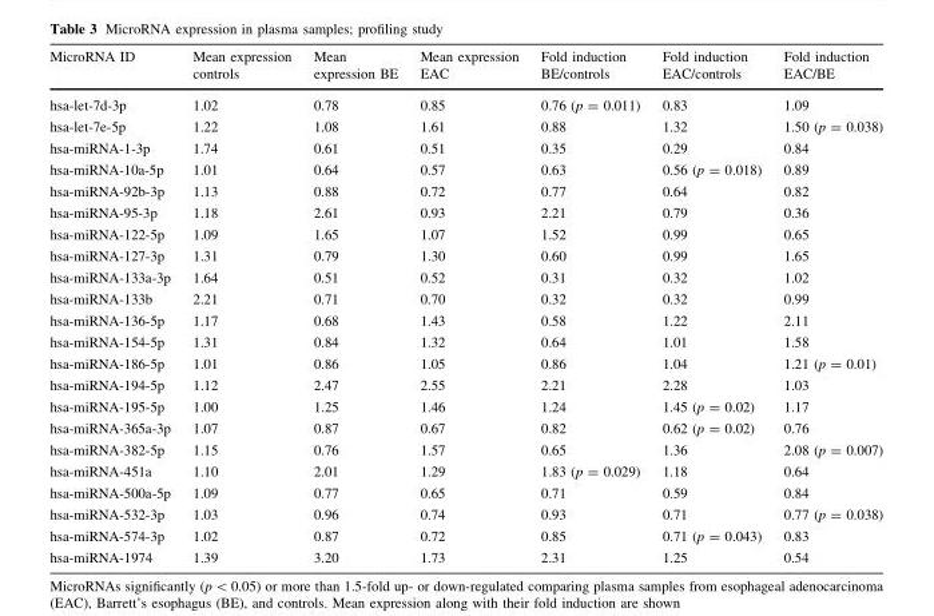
<table><thead><tr><td>MicroRNA ID</td><td>Mean expression controls</td><td>Mean expression BE</td><td>Mean expression EAC</td><td>Fold induction BE/controls</td><td>Fold induction EAC/controls</td><td>Fold induction EAC/BE</td></tr></thead><tbody><tr><td>hsa-let-7d-3p</td><td>1.02</td><td>0.78</td><td>0.85</td><td>0.76 (p = 0.011)</td><td>0.83</td><td>1.09</td></tr><tr><td>hsa-let-7e-5p</td><td>1.22</td><td>1.08</td><td>1.61</td><td>0.88</td><td>1.32</td><td>1.50 (p = 0.038)</td></tr><tr><td>hsa-miRNA-1-3p</td><td>1.74</td><td>0.61</td><td>0.51</td><td>0.35</td><td>0.29</td><td>0.84</td></tr><tr><td>hsa-miRNA-10a-5p</td><td>1.01</td><td>0.64</td><td>0.57</td><td>0.63</td><td>0.56 (p = 0.018)</td><td>0.89</td></tr><tr><td>hsa-miRNA-92b-3p</td><td>1.13</td><td>0.88</td><td>0.72</td><td>0.77</td><td>0.64</td><td>0.82</td></tr><tr><td>hsa-miRNA-95-3p</td><td>1.18</td><td>2.61</td><td>0.93</td><td>2.21</td><td>0.79</td><td>0.36</td></tr><tr><td>hsa-miRNA-122-5p</td><td>1.09</td><td>1.65</td><td>1.07</td><td>1.52</td><td>0.99</td><td>0.65</td></tr><tr><td>hsa-miRNA-127-3p</td><td>1.31</td><td>0.79</td><td>1.30</td><td>0.60</td><td>0.99</td><td>1.65</td></tr><tr><td>hsa-miRNA-133a-3p</td><td>1.64</td><td>0.51</td><td>0.52</td><td>0.31</td><td>0.32</td><td>1.02</td></tr><tr><td>hsa-miRNA-133b</td><td>2.21</td><td>0.71</td><td>0.70</td><td>0.32</td><td>0.32</td><td>0.99</td></tr><tr><td>hsa-miRNA-136-5p</td><td>1.17</td><td>0.68</td><td>1.43</td><td>0.58</td><td>1.22</td><td>2.11</td></tr><tr><td>hsa-miRNA-154-5p</td><td>1.31</td><td>0.84</td><td>1.32</td><td>0.64</td><td>1.01</td><td>1.58</td></tr><tr><td>hsa-miRNA-186-5p</td><td>1.01</td><td>0.86</td><td>1.05</td><td>0.86</td><td>1.04</td><td>1.21 (p = 0.01)</td></tr><tr><td>hsa-miRNA-194-5p</td><td>1.12</td><td>2.47</td><td>2.55</td><td>2.21</td><td>2.28</td><td>1.03</td></tr><tr><td>hsa-miRNA-195-5p</td><td>1.00</td><td>1.25</td><td>1.46</td><td>1.24</td><td>1.45 (p = 0.02)</td><td>1.17</td></tr><tr><td>hsa-miRNA-365a-3p</td><td>1.07</td><td>0.87</td><td>0.67</td><td>0.82</td><td>0.62 (p = 0.02)</td><td>0.76</td></tr><tr><td>hsa-miRNA-382-5p</td><td>1.15</td><td>0.76</td><td>1.57</td><td>0.65</td><td>1.36</td><td>2.08 (p = 0.007)</td></tr><tr><td>hsa-miRNA-451a</td><td>1.10</td><td>2.01</td><td>1.29</td><td>1.83 (p = 0.029)</td><td>1.18</td><td>0.64</td></tr><tr><td>hsa-miRNA-500a-5p</td><td>1.09</td><td>0.77</td><td>0.65</td><td>0.71</td><td>0.59</td><td>0.84</td></tr><tr><td>hsa-miRNA-532-3p</td><td>1.03</td><td>0.96</td><td>0.74</td><td>0.93</td><td>0.71</td><td>0.77 (p = 0.038)</td></tr><tr><td>hsa-miRNA-574-3p</td><td>1.02</td><td>0.87</td><td>0.72</td><td>0.85</td><td>0.71 (p = 0.043)</td><td>0.83</td></tr><tr><td>hsa-miRNA-1974</td><td>1.39</td><td>3.20</td><td>1.73</td><td>2.31</td><td>1.25</td><td>0.54</td></tr></tbody></table>